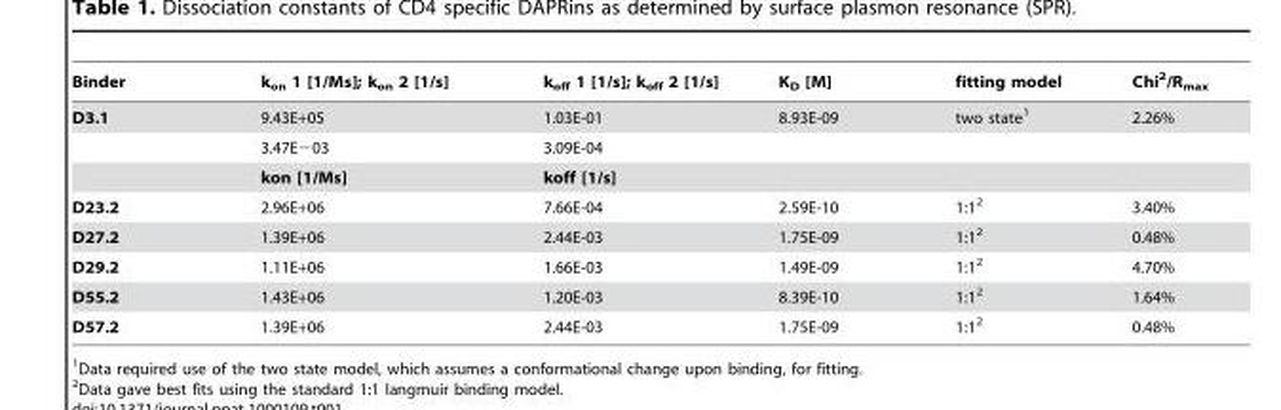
<table><thead><tr><td>Binder</td><td>k<sub>on</sub> 1 [1/Ms]; k<sub>on</sub> 2 [1/s]</td><td>k<sub>off</sub> 1 [1/s]; k<sub>off</sub> 2 [1/s]</td><td>K<sub>D</sub> [M]</td><td>fitting model</td><td>Chi<sup>2</sup>/R<sub>max</sub></td></tr></thead><tbody><tr><td rowspan="3">D3.1</td><td>9.43E+05</td><td>1.03E-01</td><td>8.93E-09</td><td>two state<sup>1</sup></td><td>2.26%</td></tr><tr><td>3.47E−03</td><td>3.09E-04</td><td></td><td></td><td></td></tr><tr><td>kon [1/Ms]</td><td>koff [1/s]</td><td></td><td></td><td></td></tr><tr><td>D23.2</td><td>2.96E+06</td><td>7.66E-04</td><td>2.59E-10</td><td>1:12</td><td>3.40%</td></tr><tr><td>D27.2</td><td>1.39E+06</td><td>2.44E-03</td><td>1.75E-09</td><td>1:12</td><td>0.48%</td></tr><tr><td>D29.2</td><td>1.11E+06</td><td>1.66E-03</td><td>1.49E-09</td><td>1:12</td><td>4.70%</td></tr><tr><td>D55.2</td><td>1.43E+06</td><td>1.20E-03</td><td>8.39E-10</td><td>1:12</td><td>1.64%</td></tr><tr><td>D57.2</td><td>1.39E+06</td><td>2.44E-03</td><td>1.75E-09</td><td>1:12</td><td>0.48%</td></tr></tbody></table>